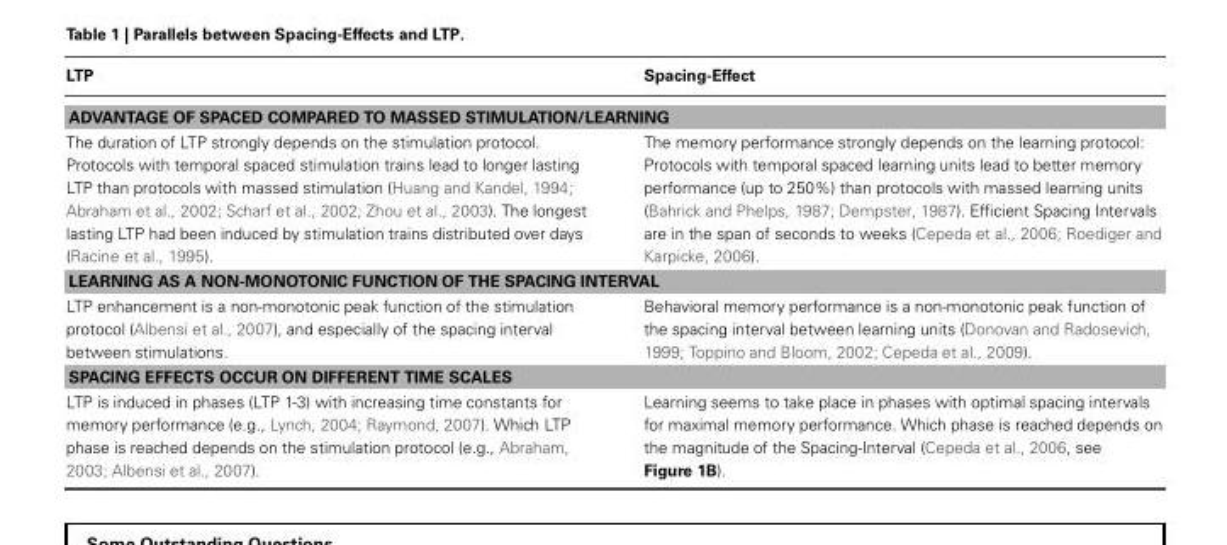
<table><thead><tr><td>LTP</td><td>Spacing-Effect</td></tr></thead><tbody><tr><td colspan="2">ADVANTAGE OF SPACED COMPARED TO MASSED STIMULATION/LEARNING</td></tr><tr><td>The duration of LTP strongly depends on the stimulation protocol. Protocols with temporal spaced stimulation trains lead to longer lasting LTP than protocols with massed stimulation (Huang and Kandel, 1994; Abraham et al., 2002; Scharf et al., 2002; Zhou et al., 2003). The longest lasting LTP had been induced by stimulation trains distributed over days (Racine et al., 1995).</td><td>The memory performance strongly depends on the learning protocol: Protocols with temporal spaced learning units lead to better memory performance (up to 250%) than protocols with massed learning units (Bahrick and Phelps, 1987; Dempster, 1987). Efficient Spacing Intervals are in the span of seconds to weeks (Cepeda et al., 2006; Roediger and Karpicke, 2006).</td></tr><tr><td colspan="2">LEARNING AS A NON-MONOTONIC FUNCTION OF THE SPACING INTERVAL</td></tr><tr><td>LTP enhancement is a non-monotonic peak function of the stimulation protocol (Albensi et al., 2007), and especially of the spacing interval between stimulations.</td><td>Behavioral memory performance is a non-monotonic peak function of the spacing interval between learning units (Donovan and Radosevich, 1999; Toppino and Bloom, 2002; Cepeda et al., 2009).</td></tr><tr><td colspan="2">SPACING EFFECTS OCCUR ON DIFFERENT TIME SCALES</td></tr><tr><td>LTP is induced in phases (LTP 1-3) with increasing time constants for memory performance (e.g., Lynch, 2004; Raymond, 2007). Which LTP phase is reached depends on the stimulation protocol (e.g., Abraham, 2003; Albensi et al., 2007).</td><td>Learning seems to take place in phases with optimal spacing intervals for maximal memory performance. Which phase is reached depends on the magnitude of the Spacing-Interval (Cepeda et al., 2006, see Figure 1B).</td></tr></tbody></table>